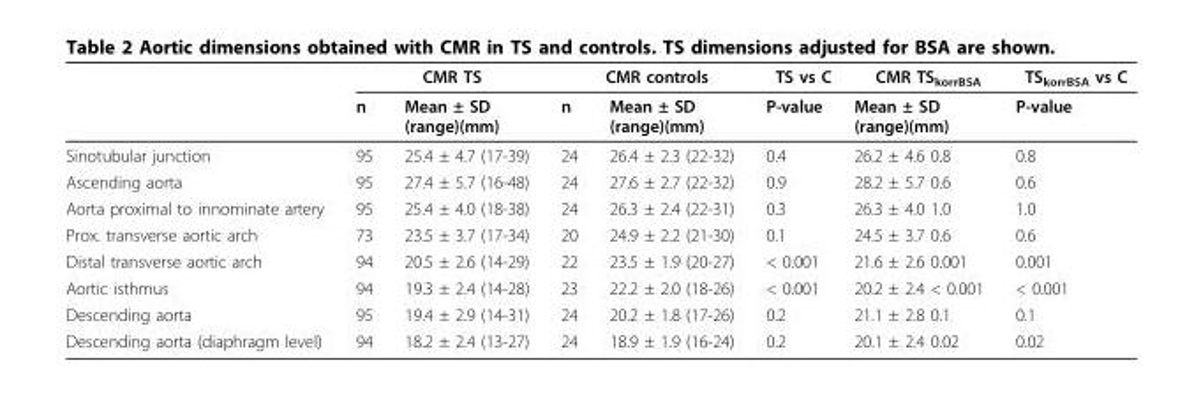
<table><thead><tr><td rowspan="2"></td><td colspan="2">CMR TS</td><td colspan="2">CMR controls</td><td rowspan="2">TS vs C P-value</td><td rowspan="2">CMR TS<sub>korrBSA</sub> Mean ± SD (range)(mm)</td><td rowspan="2">TS<sub>korrBSA</sub> vs C P-value</td></tr><tr><td>n</td><td>Mean ± SD (range)(mm)</td><td>n</td><td>Mean ± SD (range)(mm)</td></tr></thead><tbody><tr><td>Sinotubular junction</td><td>95</td><td>25.4 ± 4.7 (17-39)</td><td>24</td><td>26.4 ± 2.3 (22-32)</td><td>0.4</td><td>26.2 ± 4.6 0.8</td><td>0.8</td></tr><tr><td>Ascending aorta</td><td>95</td><td>27.4 ± 5.7 (16-48)</td><td>24</td><td>27.6 ± 2.7 (22-32)</td><td>0.9</td><td>28.2 ± 5.7 0.6</td><td>0.6</td></tr><tr><td>Aorta proximal to innominate artery</td><td>95</td><td>25.4 ± 4.0 (18-38)</td><td>24</td><td>26.3 ± 2.4 (22-31)</td><td>0.3</td><td>26.3 ± 4.0 1.0</td><td>1.0</td></tr><tr><td>Prox. transverse aortic arch</td><td>73</td><td>23.5 ± 3.7 (17-34)</td><td>20</td><td>24.9 ± 2.2 (21-30)</td><td>0.1</td><td>24.5 ± 3.7 0.6</td><td>0.6</td></tr><tr><td>Distal transverse aortic arch</td><td>94</td><td>20.5 ± 2.6 (14-29)</td><td>22</td><td>23.5 ± 1.9 (20-27)</td><td>&lt; 0.001</td><td>21.6 ± 2.6 0.001</td><td>0.001</td></tr><tr><td>Aortic isthmus</td><td>94</td><td>19.3 ± 2.4 (14-28)</td><td>23</td><td>22.2 ± 2.0 (18-26)</td><td>&lt; 0.001</td><td>20.2 ± 2.4 &lt; 0.001</td><td>&lt; 0.001</td></tr><tr><td>Descending aorta</td><td>95</td><td>19.4 ± 2.9 (14-31)</td><td>24</td><td>20.2 ± 1.8 (17-26)</td><td>0.2</td><td>21.1 ± 2.8 0.1</td><td>0.1</td></tr><tr><td>Descending aorta (diaphragm level)</td><td>94</td><td>18.2 ± 2.4 (13-27)</td><td>24</td><td>18.9 ± 1.9 (16-24)</td><td>0.2</td><td>20.1 ± 2.4 0.02</td><td>0.02</td></tr></tbody></table>